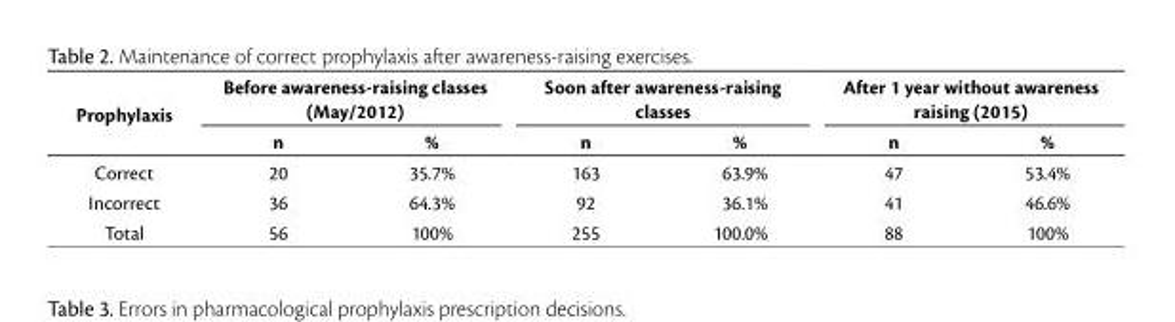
<table><thead><tr><td rowspan="2">Prophylaxis</td><td colspan="2">Before awareness-raising classes (May/2012)</td><td colspan="2">Soon after awareness-raising classes</td><td colspan="2">After 1 year without awareness raising (2015)</td></tr><tr><td>n</td><td>%</td><td>n</td><td>%</td><td>n</td><td>%</td></tr></thead><tbody><tr><td>Correct</td><td>20</td><td>35.7%</td><td>163</td><td>63.9%</td><td>47</td><td>53.4%</td></tr><tr><td>Incorrect</td><td>36</td><td>64.3%</td><td>92</td><td>36.1%</td><td>41</td><td>46.6%</td></tr><tr><td>Total</td><td>56</td><td>100%</td><td>255</td><td>100.0%</td><td>88</td><td>100%</td></tr></tbody></table>